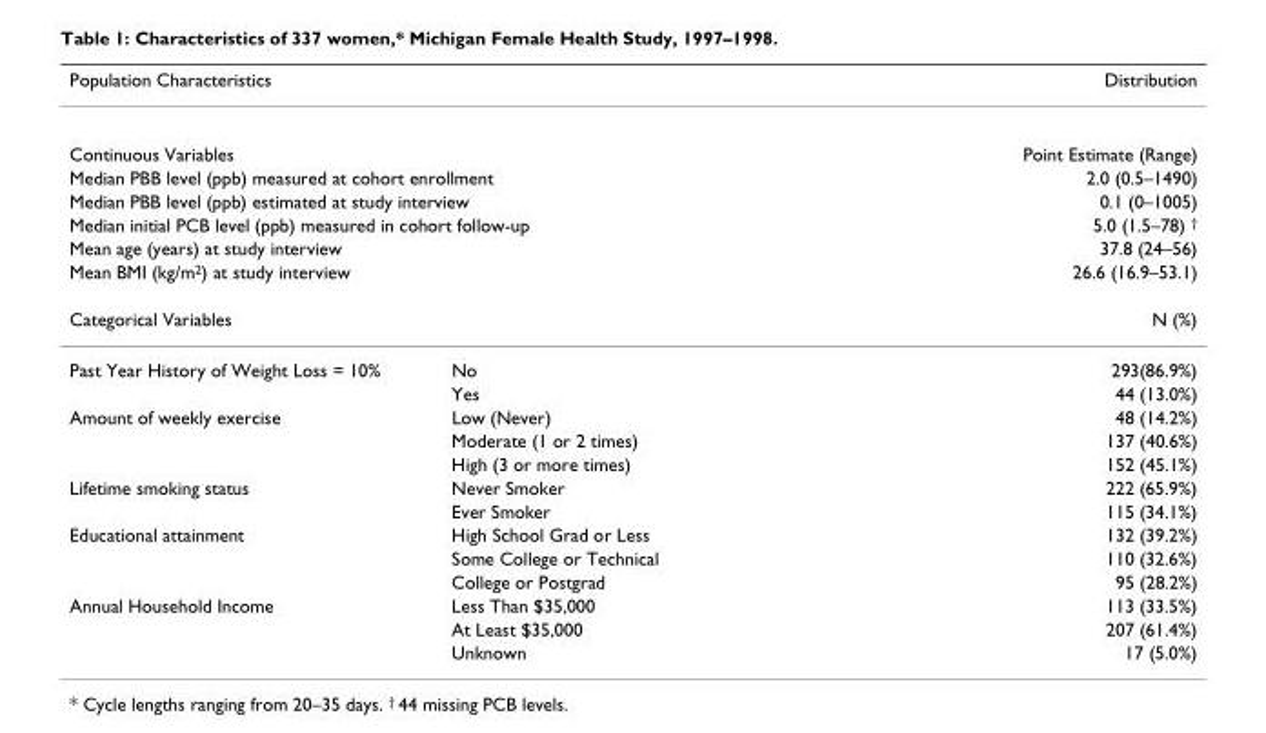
<table><thead><tr><td colspan="2">Population Characteristics</td><td>Distribution</td></tr></thead><tbody><tr><td colspan="2">Continuous Variables</td><td>Point Estimate (Range)</td></tr><tr><td colspan="2">Median PBB level (ppb) measured at cohort enrollment</td><td>2.0 (0.5–1490)</td></tr><tr><td colspan="2">Median PBB level (ppb) estimated at study interview</td><td>0.1 (0–1005)</td></tr><tr><td colspan="2">Median initial PCB level (ppb) measured in cohort follow-up</td><td>5.0 (1.5–78) <sup>†</sup></td></tr><tr><td colspan="2">Mean age (years) at study interview</td><td>37.8 (24–56)</td></tr><tr><td colspan="2">Mean BMI (kg/m<sup>2</sup>) at study interview</td><td>26.6 (16.9–53.1)</td></tr><tr><td colspan="2">Categorical Variables</td><td>N (%)</td></tr><tr><td rowspan="2">Past Year History of Weight Loss = 10%</td><td>No</td><td>293(86.9%)</td></tr><tr><td>Yes</td><td>44 (13.0%)</td></tr><tr><td rowspan="3">Amount of weekly exercise</td><td>Low (Never)</td><td>48 (14.2%)</td></tr><tr><td>Moderate (1 or 2 times)</td><td>137 (40.6%)</td></tr><tr><td>High (3 or more times)</td><td>152 (45.1%)</td></tr><tr><td rowspan="2">Lifetime smoking status</td><td>Never Smoker</td><td>222 (65.9%)</td></tr><tr><td>Ever Smoker</td><td>115 (34.1%)</td></tr><tr><td rowspan="3">Educational attainment</td><td>High School Grad or Less</td><td>132 (39.2%)</td></tr><tr><td>Some College or Technical</td><td>110 (32.6%)</td></tr><tr><td>College or Postgrad</td><td>95 (28.2%)</td></tr><tr><td rowspan="3">Annual Household Income</td><td>Less Than $35,000</td><td>113 (33.5%)</td></tr><tr><td>At Least $35,000</td><td>207 (61.4%)</td></tr><tr><td>Unknown</td><td>17 (5.0%)</td></tr></tbody></table>